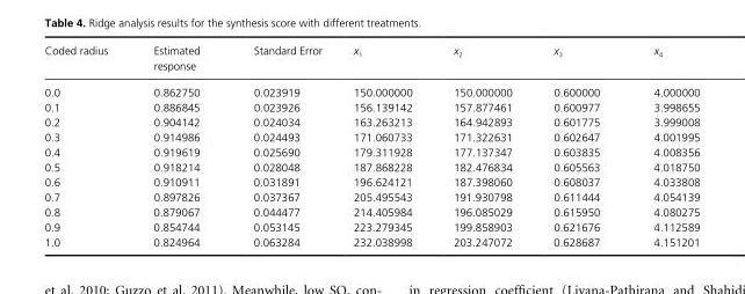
<table><thead><tr><td>Coded radius</td><td>Estimated response</td><td>Standard Error</td><td>x<sub>1</sub></td><td>x<sub>2</sub></td><td>x<sub>3</sub></td><td>x<sub>4</sub></td></tr></thead><tbody><tr><td>0.0</td><td>0.862750</td><td>0.023919</td><td>150.000000</td><td>150.000000</td><td>0.600000</td><td>4.000000</td></tr><tr><td>0.1</td><td>0.886845</td><td>0.023926</td><td>156.139142</td><td>157.877461</td><td>0.600977</td><td>3.998655</td></tr><tr><td>0.2</td><td>0.904142</td><td>0.024034</td><td>163.263213</td><td>164.942893</td><td>0.601775</td><td>3.999008</td></tr><tr><td>0.3</td><td>0.914986</td><td>0.024493</td><td>171.060733</td><td>171.322631</td><td>0.602647</td><td>4.001995</td></tr><tr><td>0.4</td><td>0.919619</td><td>0.025690</td><td>179.311928</td><td>177.137347</td><td>0.603835</td><td>4.008356</td></tr><tr><td>0.5</td><td>0.918214</td><td>0.028048</td><td>187.868228</td><td>182.476834</td><td>0.605563</td><td>4.018750</td></tr><tr><td>0.6</td><td>0.910911</td><td>0.031891</td><td>196.624121</td><td>187.398060</td><td>0.608037</td><td>4.033808</td></tr><tr><td>0.7</td><td>0.897826</td><td>0.037367</td><td>205.495543</td><td>191.930798</td><td>0.611444</td><td>4.054139</td></tr><tr><td>0.8</td><td>0.879067</td><td>0.044477</td><td>214.405984</td><td>196.085029</td><td>0.615950</td><td>4.080275</td></tr><tr><td>0.9</td><td>0.854744</td><td>0.053145</td><td>223.279345</td><td>199.858903</td><td>0.621676</td><td>4.112589</td></tr><tr><td>1.0</td><td>0.824964</td><td>0.063284</td><td>232.038998</td><td>203.247072</td><td>0.628687</td><td>4.151201</td></tr></tbody></table>